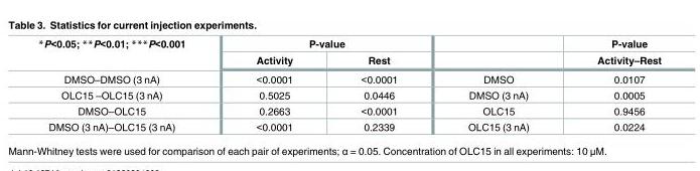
<table><thead><tr><td rowspan="2">*P&lt;0.05; **P&lt;0.01; ***P&lt;0.001</td><td colspan="2">P-value</td><td rowspan="2"></td><td rowspan="2">P-value Activity–Rest</td></tr><tr><td>Activity</td><td>Rest</td></tr></thead><tbody><tr><td>DMSO–DMSO (3 nA)</td><td>&lt;0.0001</td><td>&lt;0.0001</td><td>DMSO</td><td>0.0107</td></tr><tr><td>OLC15 –OLC15 (3 nA)</td><td>0.5025</td><td>0.0446</td><td>DMSO (3 nA)</td><td>0.0005</td></tr><tr><td>DMSO–OLC15</td><td>0.2663</td><td>&lt;0.0001</td><td>OLC15</td><td>0.9456</td></tr><tr><td>DMSO (3 nA)–OLC15 (3 nA)</td><td>&lt;0.0001</td><td>0.2339</td><td>OLC15 (3 nA)</td><td>0.0224</td></tr></tbody></table>